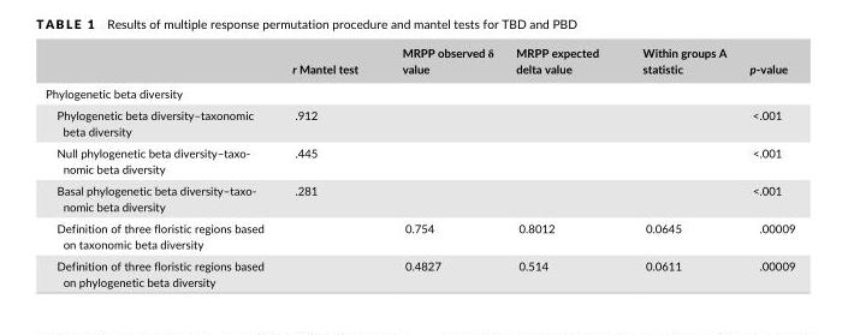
<table><thead><tr><td></td><td>r Mantel test</td><td>MRPP observed δ value</td><td>MRPP expected delta value</td><td>Within groups A statistic</td><td>p- value</td></tr></thead><tbody><tr><td colspan="6">Phylogenetic beta diversity</td></tr><tr><td>Phylogenetic beta diversity–taxonomic beta diversity</td><td>.912</td><td></td><td></td><td></td><td>&lt;.001</td></tr><tr><td>Null phylogenetic beta diversity–taxo- nomic beta diversity</td><td>.445</td><td></td><td></td><td></td><td>&lt;.001</td></tr><tr><td>Basal phylogenetic beta diversity–taxo- nomic beta diversity</td><td>.281</td><td></td><td></td><td></td><td>&lt;.001</td></tr><tr><td>Definition of three floristic regions based on taxonomic beta diversity</td><td></td><td>0.754</td><td>0.8012</td><td>0.0645</td><td>.00009</td></tr><tr><td>Definition of three floristic regions based on phylogenetic beta diversity</td><td></td><td>0.4827</td><td>0.514</td><td>0.0611</td><td>.00009</td></tr></tbody></table>